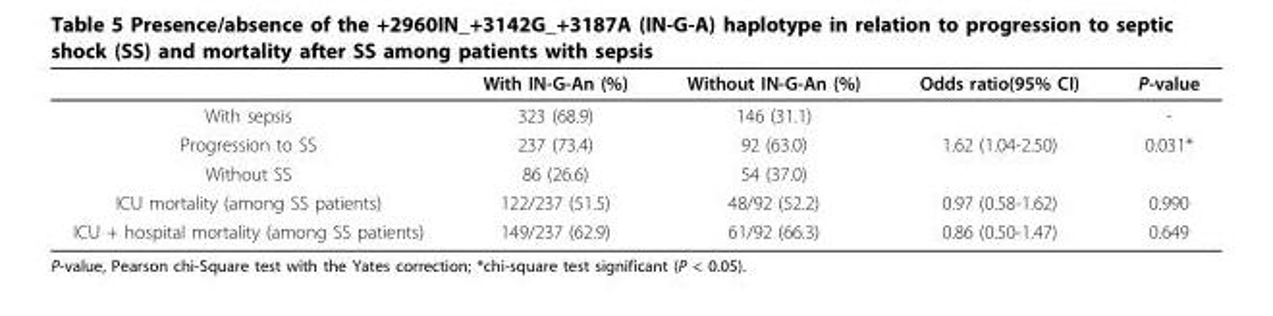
<table><thead><tr><td></td><td>With IN-G-An (%)</td><td>Without IN-G-An (%)</td><td>Odds ratio(95% CI)</td><td>P-value</td></tr></thead><tbody><tr><td>With sepsis</td><td>323 (68.9)</td><td>146 (31.1)</td><td></td><td>-</td></tr><tr><td>Progression to SS</td><td>237 (73.4)</td><td>92 (63.0)</td><td>1.62 (1.04-2.50)</td><td>0.031*</td></tr><tr><td>Without SS</td><td>86 (26.6)</td><td>54 (37.0)</td><td></td><td></td></tr><tr><td>ICU mortality (among SS patients)</td><td>122/237 (51.5)</td><td>48/92 (52.2)</td><td>0.97 (0.58-1.62)</td><td>0.990</td></tr><tr><td>ICU + hospital mortality (among SS patients)</td><td>149/237 (62.9)</td><td>61/92 (66.3)</td><td>0.86 (0.50-1.47)</td><td>0.649</td></tr></tbody></table>